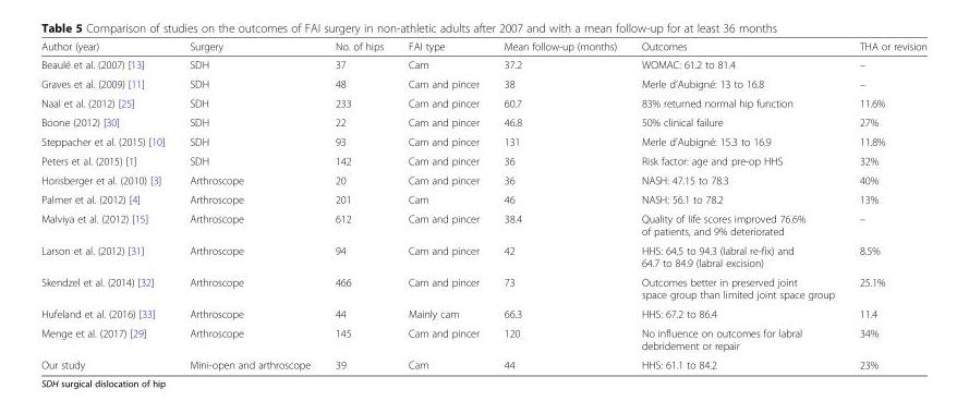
<table><thead><tr><td>Author (year)</td><td>Surgery</td><td>No. of hips</td><td>FAI type</td><td>Mean follow-up (months)</td><td>Outcomes</td><td>THA or revision</td></tr></thead><tbody><tr><td>Beaulé et al. (2007) [13]</td><td>SDH</td><td>37</td><td>Cam</td><td>37.2</td><td>WOMAC: 61.2 to 81.4</td><td>–</td></tr><tr><td>Graves et al. (2009) [11]</td><td>SDH</td><td>48</td><td>Cam and pincer</td><td>38</td><td>Merle d’Aubigné: 13 to 16.8</td><td>–</td></tr><tr><td>Naal et al. (2012) [25]</td><td>SDH</td><td>233</td><td>Cam and pincer</td><td>60.7</td><td>83% returned normal hip function</td><td>11.6%</td></tr><tr><td>Boone (2012) [30]</td><td>SDH</td><td>22</td><td>Cam and pincer</td><td>46.8</td><td>50% clinical failure</td><td>27%</td></tr><tr><td>Steppacher et al. (2015) [10]</td><td>SDH</td><td>93</td><td>Cam and pincer</td><td>131</td><td>Merle d’Aubigné: 15.3 to 16.9</td><td>11.8%</td></tr><tr><td>Peters et al. (2015) [1]</td><td>SDH</td><td>142</td><td>Cam and pincer</td><td>36</td><td>Risk factor: age and pre-op HHS</td><td>32%</td></tr><tr><td>Horisberger et al. (2010) [3]</td><td>Arthroscope</td><td>20</td><td>Cam and pincer</td><td>36</td><td>NASH: 47.15 to 78.3</td><td>40%</td></tr><tr><td>Palmer et al. (2012) [4]</td><td>Arthroscope</td><td>201</td><td>Cam</td><td>46</td><td>NASH: 56.1 to 78.2</td><td>13%</td></tr><tr><td>Malviya et al. (2012) [15]</td><td>Arthroscope</td><td>612</td><td>Cam and pincer</td><td>38.4</td><td>Quality of life scores improved 76.6% of patients, and 9% deteriorated</td><td>–</td></tr><tr><td>Larson et al. (2012) [31]</td><td>Arthroscope</td><td>94</td><td>Cam and pincer</td><td>42</td><td>HHS: 64.5 to 94.3 (labral re-fix) and 64.7 to 84.9 (labral excision)</td><td>8.5%</td></tr><tr><td>Skendzel et al. (2014) [32]</td><td>Arthroscope</td><td>466</td><td>Cam and pincer</td><td>73</td><td>Outcomes better in preserved joint space group than limited joint space group</td><td>25.1%</td></tr><tr><td>Hufeland et al. (2016) [33]</td><td>Arthroscope</td><td>44</td><td>Mainly cam</td><td>66.3</td><td>HHS: 67.2 to 86.4</td><td>11.4</td></tr><tr><td>Menge et al. (2017) [29]</td><td>Arthroscope</td><td>145</td><td>Cam and pincer</td><td>120</td><td>No influence on outcomes for labral debridement or repair</td><td>34%</td></tr><tr><td>Our study</td><td>Mini-open and arthroscope</td><td>39</td><td>Cam</td><td>44</td><td>HHS: 61.1 to 84.2</td><td>23%</td></tr></tbody></table>